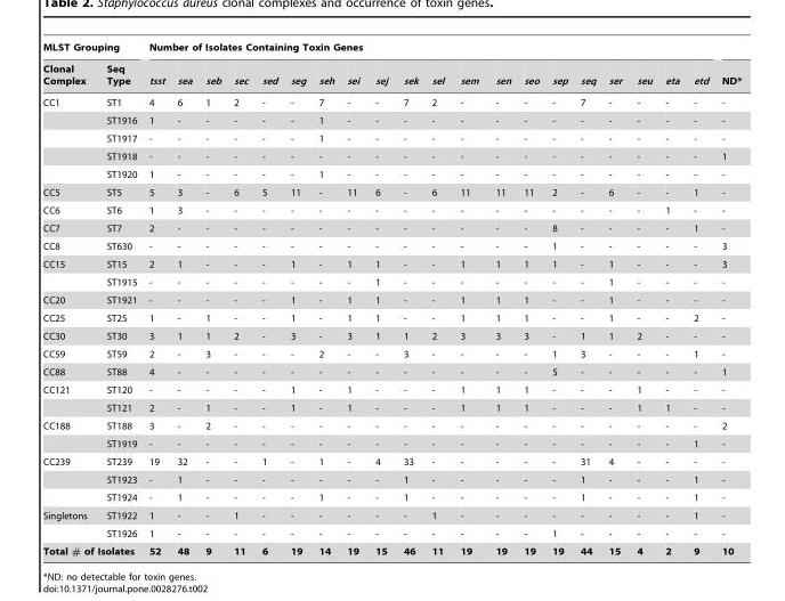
<table><thead><tr><td colspan="2">MLST Grouping</td><td colspan="20">Number of Isolates Containing Toxin Genes</td><td rowspan="2">ND*</td></tr><tr><td>Clonal Complex</td><td>Seq Type</td><td>tsst</td><td>sea</td><td>seb</td><td>sec</td><td>sed</td><td>seg</td><td>seh</td><td>sei</td><td>sej</td><td>sek</td><td>sel</td><td>sem</td><td>sen</td><td>seo</td><td>sep</td><td>seq</td><td>ser</td><td>seu</td><td>eta</td><td>etd</td></tr></thead><tbody><tr><td rowspan="5">CC1</td><td>ST1</td><td>4</td><td>6</td><td>1</td><td>2</td><td>-</td><td>-</td><td>7</td><td>-</td><td>-</td><td>7</td><td>2</td><td>-</td><td>-</td><td>-</td><td>-</td><td>7</td><td>-</td><td>-</td><td>-</td><td>-</td><td>-</td></tr><tr><td>ST1916</td><td>1</td><td>-</td><td>-</td><td>-</td><td>-</td><td>-</td><td>1</td><td>-</td><td>-</td><td>-</td><td>-</td><td>-</td><td>-</td><td>-</td><td>-</td><td>-</td><td>-</td><td>-</td><td>-</td><td>-</td><td>-</td></tr><tr><td>ST1917</td><td>-</td><td>-</td><td>-</td><td>-</td><td>-</td><td>-</td><td>1</td><td>-</td><td>-</td><td>-</td><td>-</td><td>-</td><td>-</td><td>-</td><td>-</td><td>-</td><td>-</td><td>-</td><td>-</td><td>-</td><td>-</td></tr><tr><td>ST1918</td><td>-</td><td>-</td><td>-</td><td>-</td><td>-</td><td>-</td><td>-</td><td>-</td><td>-</td><td>-</td><td>-</td><td>-</td><td>-</td><td>-</td><td>-</td><td>-</td><td>-</td><td>-</td><td>-</td><td>-</td><td>1</td></tr><tr><td>ST1920</td><td>1</td><td>-</td><td>-</td><td>-</td><td>-</td><td>-</td><td>1</td><td>-</td><td>-</td><td>-</td><td>-</td><td>-</td><td>-</td><td>-</td><td>-</td><td>-</td><td>-</td><td>-</td><td>-</td><td>-</td><td>-</td></tr><tr><td>CC5</td><td>ST5</td><td>5</td><td>3</td><td>-</td><td>6</td><td>5</td><td>11</td><td>-</td><td>11</td><td>6</td><td>-</td><td>6</td><td>11</td><td>11</td><td>11</td><td>2</td><td>-</td><td>6</td><td>-</td><td>-</td><td>1</td><td>-</td></tr><tr><td>CC6</td><td>ST6</td><td>1</td><td>3</td><td>-</td><td>-</td><td>-</td><td>-</td><td>-</td><td>-</td><td>-</td><td>-</td><td>-</td><td>-</td><td>-</td><td>-</td><td>-</td><td>-</td><td>-</td><td>-</td><td>1</td><td>-</td><td>-</td></tr><tr><td>CC7</td><td>ST7</td><td>2</td><td>-</td><td>-</td><td>-</td><td>-</td><td>-</td><td>-</td><td>-</td><td>-</td><td>-</td><td>-</td><td>-</td><td>-</td><td>-</td><td>8</td><td>-</td><td>-</td><td>-</td><td>-</td><td>1</td><td>-</td></tr><tr><td>CC8</td><td>ST630</td><td>-</td><td>-</td><td>-</td><td>-</td><td>-</td><td>-</td><td>-</td><td>-</td><td>-</td><td>-</td><td>-</td><td>-</td><td>-</td><td>-</td><td>1</td><td>-</td><td>-</td><td>-</td><td>-</td><td>-</td><td>3</td></tr><tr><td rowspan="2">CC15</td><td>ST15</td><td>2</td><td>1</td><td>-</td><td>-</td><td>-</td><td>1</td><td>-</td><td>1</td><td>1</td><td>-</td><td>-</td><td>1</td><td>1</td><td>1</td><td>1</td><td>-</td><td>1</td><td>-</td><td>-</td><td>-</td><td>3</td></tr><tr><td>ST1915</td><td>-</td><td>-</td><td>-</td><td>-</td><td>-</td><td>-</td><td>-</td><td>-</td><td>1</td><td>-</td><td>-</td><td>-</td><td>-</td><td>-</td><td>-</td><td>-</td><td>1</td><td>-</td><td>-</td><td>-</td><td>-</td></tr><tr><td>CC20</td><td>ST1921</td><td>-</td><td>-</td><td>-</td><td>-</td><td>-</td><td>1</td><td>-</td><td>1</td><td>1</td><td>-</td><td>-</td><td>1</td><td>1</td><td>1</td><td>-</td><td>-</td><td>1</td><td>-</td><td>-</td><td>-</td><td>-</td></tr><tr><td>CC25</td><td>ST25</td><td>1</td><td>-</td><td>1</td><td>-</td><td>-</td><td>1</td><td>-</td><td>1</td><td>1</td><td>-</td><td>-</td><td>1</td><td>1</td><td>1</td><td>-</td><td>-</td><td>1</td><td>-</td><td>-</td><td>2</td><td>-</td></tr><tr><td>CC30</td><td>ST30</td><td>3</td><td>1</td><td>1</td><td>2</td><td>-</td><td>3</td><td>-</td><td>3</td><td>1</td><td>1</td><td>2</td><td>3</td><td>3</td><td>3</td><td>-</td><td>1</td><td>1</td><td>2</td><td>-</td><td>-</td><td>-</td></tr><tr><td>CC59</td><td>ST59</td><td>2</td><td>-</td><td>3</td><td>-</td><td>-</td><td>-</td><td>2</td><td>-</td><td>-</td><td>3</td><td>-</td><td>-</td><td>-</td><td>-</td><td>1</td><td>3</td><td>-</td><td>-</td><td>-</td><td>1</td><td>-</td></tr><tr><td>CC88</td><td>ST88</td><td>4</td><td>-</td><td>-</td><td>-</td><td>-</td><td>-</td><td>-</td><td>-</td><td>-</td><td>-</td><td>-</td><td>-</td><td>-</td><td>-</td><td>5</td><td>-</td><td>-</td><td>-</td><td>-</td><td>-</td><td>1</td></tr><tr><td rowspan="2">CC121</td><td>ST120</td><td>-</td><td>-</td><td>-</td><td>-</td><td>-</td><td>1</td><td>-</td><td>1</td><td>-</td><td>-</td><td>-</td><td>1</td><td>1</td><td>1</td><td>-</td><td>-</td><td>-</td><td>1</td><td>-</td><td>-</td><td>-</td></tr><tr><td>ST121</td><td>2</td><td>-</td><td>1</td><td>-</td><td>-</td><td>1</td><td>-</td><td>1</td><td>-</td><td>-</td><td>-</td><td>1</td><td>1</td><td>1</td><td>-</td><td>-</td><td>-</td><td>1</td><td>1</td><td>-</td><td>-</td></tr><tr><td rowspan="2">CC188</td><td>ST188</td><td>3</td><td>-</td><td>2</td><td>-</td><td>-</td><td>-</td><td>-</td><td>-</td><td>-</td><td>-</td><td>-</td><td>-</td><td>-</td><td>-</td><td>-</td><td>-</td><td>-</td><td>-</td><td>-</td><td>-</td><td>2</td></tr><tr><td>ST1919</td><td>-</td><td>-</td><td>-</td><td>-</td><td>-</td><td>-</td><td>-</td><td>-</td><td>-</td><td>-</td><td>-</td><td>-</td><td>-</td><td>-</td><td>-</td><td>-</td><td>-</td><td>-</td><td>-</td><td>1</td><td>-</td></tr><tr><td rowspan="3">CC239</td><td>ST239</td><td>19</td><td>32</td><td>-</td><td>-</td><td>1</td><td>-</td><td>1</td><td>-</td><td>4</td><td>33</td><td>-</td><td>-</td><td>-</td><td>-</td><td>-</td><td>31</td><td>4</td><td>-</td><td>-</td><td>-</td><td>-</td></tr><tr><td>ST1923</td><td>-</td><td>1</td><td>-</td><td>-</td><td>-</td><td>-</td><td>-</td><td>-</td><td>-</td><td>1</td><td>-</td><td>-</td><td>-</td><td>-</td><td>-</td><td>1</td><td>-</td><td>-</td><td>-</td><td>1</td><td>-</td></tr><tr><td>ST1924</td><td>-</td><td>1</td><td>-</td><td>-</td><td>-</td><td>-</td><td>1</td><td>-</td><td>-</td><td>1</td><td>-</td><td>-</td><td>-</td><td>-</td><td>-</td><td>1</td><td>-</td><td>-</td><td>-</td><td>1</td><td>-</td></tr><tr><td rowspan="2">Singletons</td><td>ST1922</td><td>1</td><td>-</td><td>-</td><td>1</td><td>-</td><td>-</td><td>-</td><td>-</td><td>-</td><td>-</td><td>1</td><td>-</td><td>-</td><td>-</td><td>-</td><td>-</td><td>-</td><td>-</td><td>-</td><td>1</td><td>-</td></tr><tr><td>ST1926</td><td>1</td><td>-</td><td>-</td><td>-</td><td>-</td><td>-</td><td>-</td><td>-</td><td>-</td><td>-</td><td>-</td><td>-</td><td>-</td><td>-</td><td>1</td><td>-</td><td>-</td><td>-</td><td>-</td><td>-</td><td>-</td></tr><tr><td colspan="2">Total # of Isolates</td><td>52</td><td>48</td><td>9</td><td>11</td><td>6</td><td>19</td><td>14</td><td>19</td><td>15</td><td>46</td><td>11</td><td>19</td><td>19</td><td>19</td><td>19</td><td>44</td><td>15</td><td>4</td><td>2</td><td>9</td><td>10</td></tr></tbody></table>